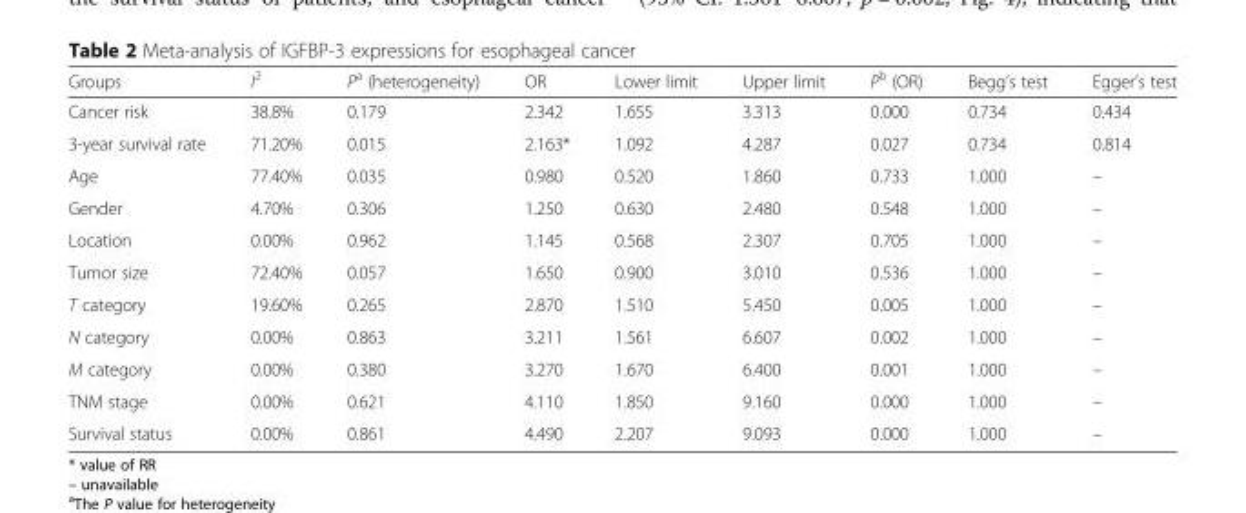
<table><thead><tr><td>Groups</td><td>I<sup>2</sup></td><td>P<sup>a</sup> (heterogeneity)</td><td>OR</td><td>Lower limit</td><td>Upper limit</td><td>P<sup>b</sup> (OR)</td><td>Begg’s test</td><td>Egger’s test</td></tr></thead><tbody><tr><td>Cancer risk</td><td>38.8%</td><td>0.179</td><td>2.342</td><td>1.655</td><td>3.313</td><td>0.000</td><td>0.734</td><td>0.434</td></tr><tr><td>3-year survival rate</td><td>71.20%</td><td>0.015</td><td>2.163*</td><td>1.092</td><td>4.287</td><td>0.027</td><td>0.734</td><td>0.814</td></tr><tr><td>Age</td><td>77.40%</td><td>0.035</td><td>0.980</td><td>0.520</td><td>1.860</td><td>0.733</td><td>1.000</td><td>–</td></tr><tr><td>Gender</td><td>4.70%</td><td>0.306</td><td>1.250</td><td>0.630</td><td>2.480</td><td>0.548</td><td>1.000</td><td>–</td></tr><tr><td>Location</td><td>0.00%</td><td>0.962</td><td>1.145</td><td>0.568</td><td>2.307</td><td>0.705</td><td>1.000</td><td>–</td></tr><tr><td>Tumor size</td><td>72.40%</td><td>0.057</td><td>1.650</td><td>0.900</td><td>3.010</td><td>0.536</td><td>1.000</td><td>–</td></tr><tr><td>T category</td><td>19.60%</td><td>0.265</td><td>2.870</td><td>1.510</td><td>5.450</td><td>0.005</td><td>1.000</td><td>–</td></tr><tr><td>N category</td><td>0.00%</td><td>0.863</td><td>3.211</td><td>1.561</td><td>6.607</td><td>0.002</td><td>1.000</td><td>–</td></tr><tr><td>M category</td><td>0.00%</td><td>0.380</td><td>3.270</td><td>1.670</td><td>6.400</td><td>0.001</td><td>1.000</td><td>–</td></tr><tr><td>TNM stage</td><td>0.00%</td><td>0.621</td><td>4.110</td><td>1.850</td><td>9.160</td><td>0.000</td><td>1.000</td><td>–</td></tr><tr><td>Survival status</td><td>0.00%</td><td>0.861</td><td>4.490</td><td>2.207</td><td>9.093</td><td>0.000</td><td>1.000</td><td>–</td></tr></tbody></table>